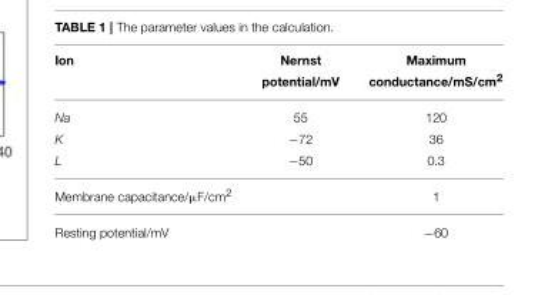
<table><thead><tr><td>Ion</td><td>Nernst potential/mV</td><td>Maximum conductance/mS/cm<sup>2</sup></td></tr></thead><tbody><tr><td>Na</td><td>55</td><td>120</td></tr><tr><td>K</td><td>−72</td><td>36</td></tr><tr><td>L</td><td>−50</td><td>0.3</td></tr><tr><td>Membrane capacitance/µF/cm<sup>2</sup></td><td></td><td>1</td></tr><tr><td>Resting potential/mV</td><td></td><td>−60</td></tr></tbody></table>